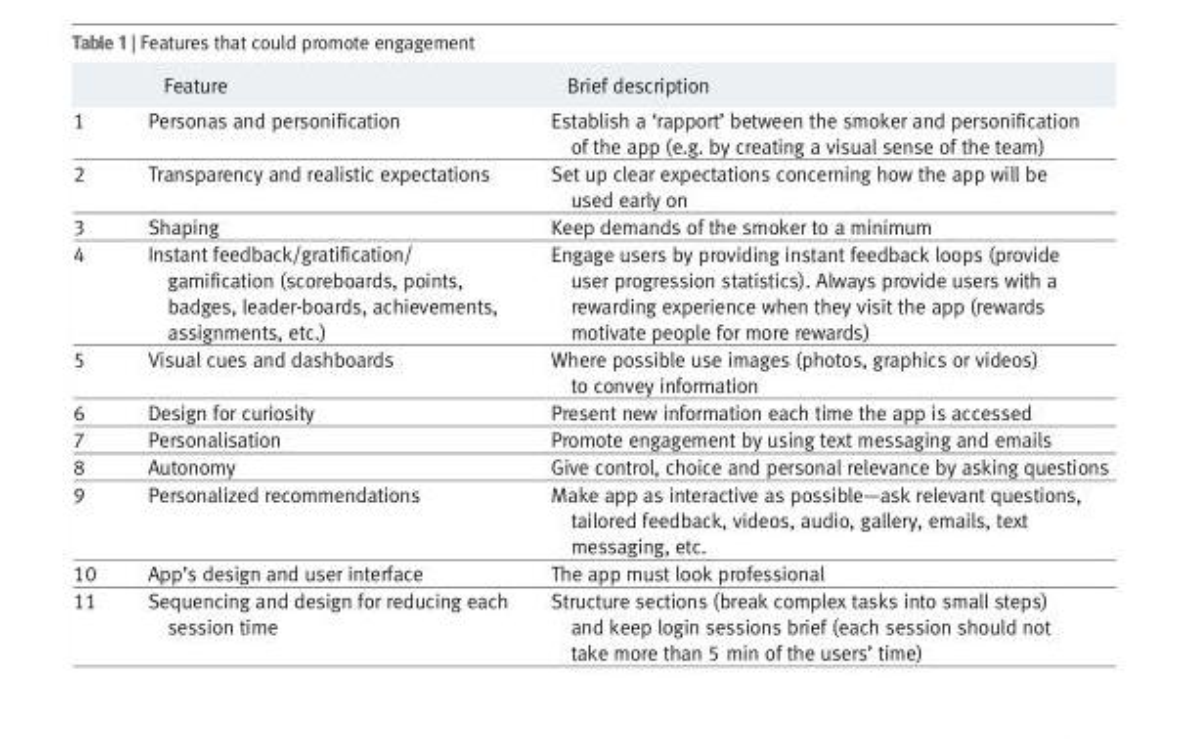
<table><thead><tr><td></td><td>Feature</td><td>Brief description</td></tr></thead><tbody><tr><td>1</td><td>Personas and personification</td><td>Establish a ‘rapport’ between the smoker and personification of the app (e.g. by creating a visual sense of the team)</td></tr><tr><td>2</td><td>Transparency and realistic expectations</td><td>Set up clear expectations concerning how the app will be used early on</td></tr><tr><td>3</td><td>Shaping</td><td>Keep demands of the smoker to a minimum</td></tr><tr><td>4</td><td>Instant feedback/gratification/ gamification (scoreboards, points, badges, leader-boards, achievements, assignments, etc.)</td><td>Engage users by providing instant feedback loops (provide user progression statistics). Always provide users with a rewarding experience when they visit the app (rewards motivate people for more rewards)</td></tr><tr><td>5</td><td>Visual cues and dashboards</td><td>Where possible use images (photos, graphics or videos) to convey information</td></tr><tr><td>6</td><td>Design for curiosity</td><td>Present new information each time the app is accessed</td></tr><tr><td>7</td><td>Personalisation</td><td>Promote engagement by using text messaging and emails</td></tr><tr><td>8</td><td>Autonomy</td><td>Give control, choice and personal relevance by asking questions</td></tr><tr><td>9</td><td>Personalized recommendations</td><td>Make app as interactive as possible—ask relevant questions, tailored feedback, videos, audio, gallery, emails, text messaging, etc.</td></tr><tr><td>10</td><td>App’s design and user interface</td><td>The app must look professional</td></tr><tr><td>11</td><td>Sequencing and design for reducing each session time</td><td>Structure sections (break complex tasks into small steps) and keep login sessions brief (each session should not take more than 5 min of the users’ time)</td></tr></tbody></table>